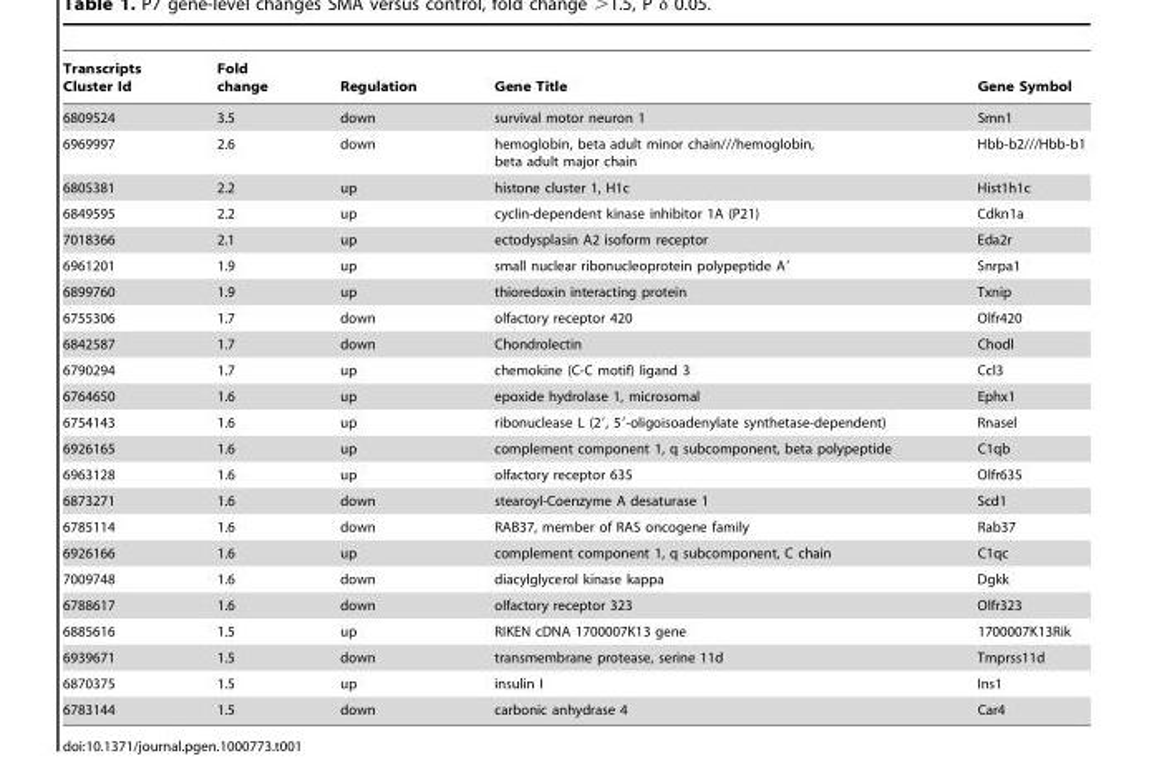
<table><thead><tr><td>Transcripts Cluster Id</td><td>Fold change</td><td>Regulation</td><td>Gene Title</td><td>Gene Symbol</td></tr></thead><tbody><tr><td>6809524</td><td>3.5</td><td>down</td><td>survival motor neuron 1</td><td>Smn1</td></tr><tr><td>6969997</td><td>2.6</td><td>down</td><td>hemoglobin, beta adult minor chain///hemoglobin, beta adult major chain</td><td>Hbb-b2///Hbb-b1</td></tr><tr><td>6805381</td><td>2.2</td><td>up</td><td>histone cluster 1, H1c</td><td>Hist1h1c</td></tr><tr><td>6849595</td><td>2.2</td><td>up</td><td>cyclin-dependent kinase inhibitor 1A (P21)</td><td>Cdkn1a</td></tr><tr><td>7018366</td><td>2.1</td><td>up</td><td>ectodysplasin A2 isoform receptor</td><td>Eda2r</td></tr><tr><td>6961201</td><td>1.9</td><td>up</td><td>small nuclear ribonucleoprotein polypeptide A′</td><td>Snrpa1</td></tr><tr><td>6899760</td><td>1.9</td><td>up</td><td>thioredoxin interacting protein</td><td>Txnip</td></tr><tr><td>6755306</td><td>1.7</td><td>down</td><td>olfactory receptor 420</td><td>Olfr420</td></tr><tr><td>6842587</td><td>1.7</td><td>down</td><td>Chondrolectin</td><td>Chodl</td></tr><tr><td>6790294</td><td>1.7</td><td>up</td><td>chemokine (C-C motif) ligand 3</td><td>Ccl3</td></tr><tr><td>6764650</td><td>1.6</td><td>up</td><td>epoxide hydrolase 1, microsomal</td><td>Ephx1</td></tr><tr><td>6754143</td><td>1.6</td><td>up</td><td>ribonuclease L (2′, 5′-oligoisoadenylate synthetase-dependent)</td><td>Rnasel</td></tr><tr><td>6926165</td><td>1.6</td><td>up</td><td>complement component 1, q subcomponent, beta polypeptide</td><td>C1qb</td></tr><tr><td>6963128</td><td>1.6</td><td>up</td><td>olfactory receptor 635</td><td>Olfr635</td></tr><tr><td>6873271</td><td>1.6</td><td>down</td><td>stearoyl-Coenzyme A desaturase 1</td><td>Scd1</td></tr><tr><td>6785114</td><td>1.6</td><td>down</td><td>RAB37, member of RAS oncogene family</td><td>Rab37</td></tr><tr><td>6926166</td><td>1.6</td><td>up</td><td>complement component 1, q subcomponent, C chain</td><td>C1qc</td></tr><tr><td>7009748</td><td>1.6</td><td>down</td><td>diacylglycerol kinase kappa</td><td>Dgkk</td></tr><tr><td>6788617</td><td>1.6</td><td>down</td><td>olfactory receptor 323</td><td>Olfr323</td></tr><tr><td>6885616</td><td>1.5</td><td>up</td><td>RIKEN cDNA 1700007K13 gene</td><td>1700007K13Rik</td></tr><tr><td>6939671</td><td>1.5</td><td>down</td><td>transmembrane protease, serine 11d</td><td>Tmprss11d</td></tr><tr><td>6870375</td><td>1.5</td><td>up</td><td>insulin I</td><td>Ins1</td></tr><tr><td>6783144</td><td>1.5</td><td>down</td><td>carbonic anhydrase 4</td><td>Car4</td></tr></tbody></table>